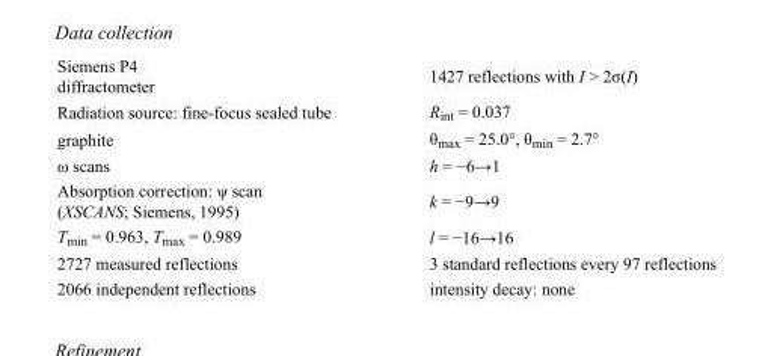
<table><tbody><tr><td>Siemens P4 diffractometer</td><td>1427 reflections with I &gt; 2σ(I)</td></tr><tr><td>Radiation source: fine-focus sealed tube</td><td>R<sub>int</sub> = 0.037</td></tr><tr><td>graphite</td><td>θ<sub>max</sub> = 25.0°, θ<sub>min</sub> = 2.7°</td></tr><tr><td>ω scans</td><td>h = −6→1</td></tr><tr><td>Absorption correction: ψ scan (XSCANS; Siemens, 1995)</td><td>k = −9→9</td></tr><tr><td>T<sub>min</sub> = 0.963, T<sub>max</sub> = 0.989</td><td>l = −16→16</td></tr><tr><td>2727 measured reflections</td><td>3 standard reflections every 97 reflections</td></tr><tr><td>2066 independent reflections</td><td>intensity decay: none</td></tr></tbody></table>